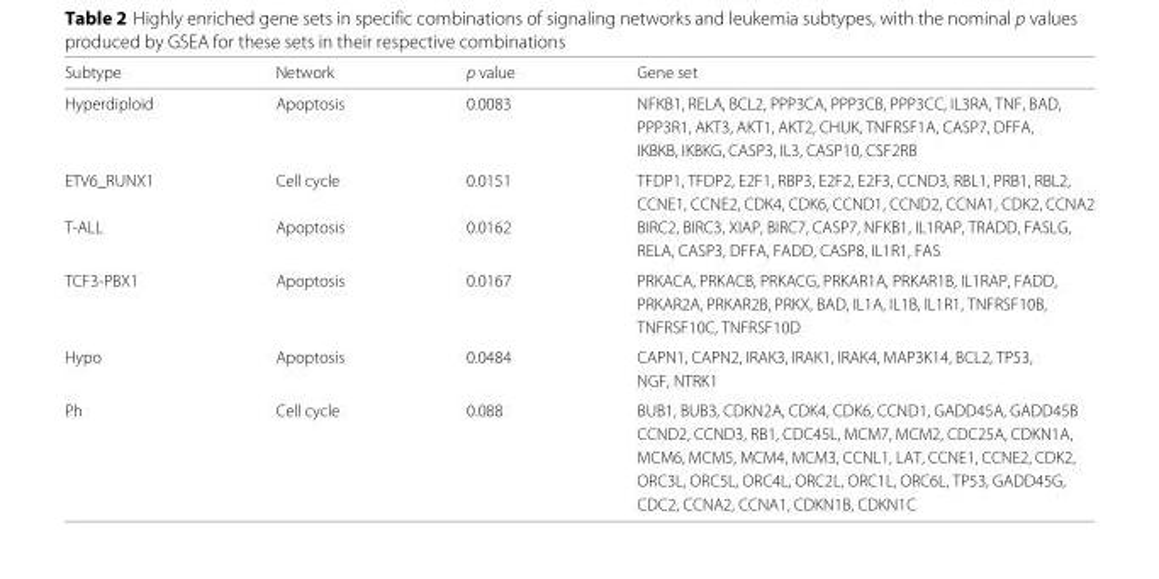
<table><thead><tr><td>Subtype</td><td>Network</td><td>p value</td><td>Gene set</td></tr></thead><tbody><tr><td rowspan="3">Hyperdiploid</td><td>Apoptosis</td><td>0.0083</td><td>NFKB1, RELA, BCL2, PPP3CA, PPP3CB, PPP3CC, IL3RA, TNF, BAD,</td></tr><tr><td></td><td></td><td>PPP3R1, AKT3, AKT1, AKT2, CHUK, TNFRSF1A, CASP7, DFFA,</td></tr><tr><td></td><td></td><td>IKBKB, IKBKG, CASP3, IL3, CASP10, CSF2RB</td></tr><tr><td rowspan="2">ETV6_RUNX1</td><td>Cell cycle</td><td>0.0151</td><td>TFDP1, TFDP2, E2F1, RBP3, E2F2, E2F3, CCND3, RBL1, PRB1, RBL2,</td></tr><tr><td></td><td></td><td>CCNE1, CCNE2, CDK4, CDK6, CCND1, CCND2, CCNA1, CDK2, CCNA2</td></tr><tr><td rowspan="2">T-ALL</td><td>Apoptosis</td><td>0.0162</td><td>BIRC2, BIRC3, XIAP, BIRC7, CASP7, NFKB1, IL1RAP, TRADD, FASLG,</td></tr><tr><td></td><td></td><td>RELA, CASP3, DFFA, FADD, CASP8, IL1R1, FAS</td></tr><tr><td rowspan="3">TCF3-PBX1</td><td>Apoptosis</td><td>0.0167</td><td>PRKACA, PRKACB, PRKACG, PRKAR1A, PRKAR1B, IL1RAP, FADD,</td></tr><tr><td></td><td></td><td>PRKAR2A, PRKAR2B, PRKX, BAD, IL1A, IL1B, IL1R1, TNFRSF10B,</td></tr><tr><td></td><td></td><td>TNFRSF10C, TNFRSF10D</td></tr><tr><td rowspan="2">Hypo</td><td>Apoptosis</td><td>0.0484</td><td>CAPN1, CAPN2, IRAK3, IRAK1, IRAK4, MAP3K14, BCL2, TP53,</td></tr><tr><td></td><td></td><td>NGF, NTRK1</td></tr><tr><td rowspan="5">Ph</td><td>Cell cycle</td><td>0.088</td><td>BUB1, BUB3, CDKN2A, CDK4, CDK6, CCND1, GADD45A, GADD45B</td></tr><tr><td></td><td></td><td>CCND2, CCND3, RB1, CDC45L, MCM7, MCM2, CDC25A, CDKN1A,</td></tr><tr><td></td><td></td><td>MCM6, MCM5, MCM4, MCM3, CCNL1, LAT, CCNE1, CCNE2, CDK2,</td></tr><tr><td></td><td></td><td>ORC3L, ORC5L, ORC4L, ORC2L, ORC1L, ORC6L, TP53, GADD45G,</td></tr><tr><td></td><td></td><td>CDC2, CCNA2, CCNA1, CDKN1B, CDKN1C</td></tr></tbody></table>